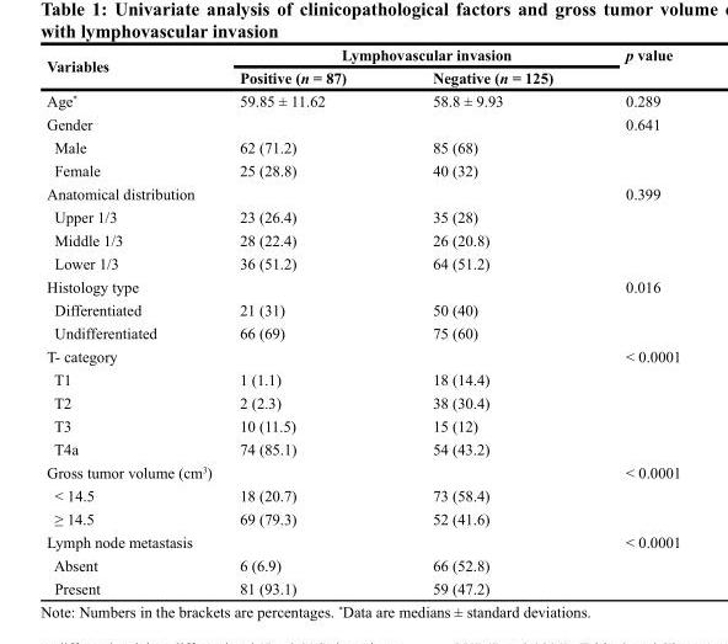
<table><thead><tr><td rowspan="2">Variables</td><td colspan="2">Lymphovascular invasion</td><td rowspan="2">p value</td></tr><tr><td>Positive (n = 87)</td><td>Negative (n = 125)</td></tr></thead><tbody><tr><td>Age*</td><td>59.85 ± 11.62</td><td>58.8 ± 9.93</td><td>0.289</td></tr><tr><td>Gender</td><td></td><td></td><td>0.641</td></tr><tr><td>Male</td><td>62 (71.2)</td><td>85 (68)</td><td></td></tr><tr><td>Female</td><td>25 (28.8)</td><td>40 (32)</td><td></td></tr><tr><td>Anatomical distribution</td><td></td><td></td><td>0.399</td></tr><tr><td>Upper 1/3</td><td>23 (26.4)</td><td>35 (28)</td><td></td></tr><tr><td>Middle 1/3</td><td>28 (22.4)</td><td>26 (20.8)</td><td></td></tr><tr><td>Lower 1/3</td><td>36 (51.2)</td><td>64 (51.2)</td><td></td></tr><tr><td>Histology type</td><td></td><td></td><td>0.016</td></tr><tr><td>Differentiated</td><td>21 (31)</td><td>50 (40)</td><td></td></tr><tr><td>Undifferentiated</td><td>66 (69)</td><td>75 (60)</td><td></td></tr><tr><td>T- category</td><td></td><td></td><td>&lt; 0.0001</td></tr><tr><td>T1</td><td>1 (1.1)</td><td>18 (14.4)</td><td></td></tr><tr><td>T2</td><td>2 (2.3)</td><td>38 (30.4)</td><td></td></tr><tr><td>T3</td><td>10 (11.5)</td><td>15 (12)</td><td></td></tr><tr><td>T4a</td><td>74 (85.1)</td><td>54 (43.2)</td><td></td></tr><tr><td>Gross tumor volume (cm<sup>3</sup>)</td><td></td><td></td><td>&lt; 0.0001</td></tr><tr><td>&lt; 14.5</td><td>18 (20.7)</td><td>73 (58.4)</td><td></td></tr><tr><td>≥ 14.5</td><td>69 (79.3)</td><td>52 (41.6)</td><td></td></tr><tr><td>Lymph node metastasis</td><td></td><td></td><td>&lt; 0.0001</td></tr><tr><td>Absent</td><td>6 (6.9)</td><td>66 (52.8)</td><td></td></tr><tr><td>Present</td><td>81 (93.1)</td><td>59 (47.2)</td><td></td></tr></tbody></table>